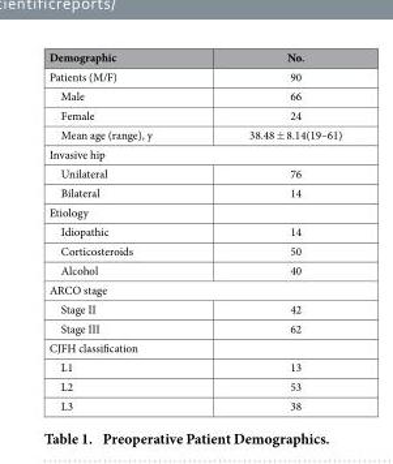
<table><thead><tr><td>Demographic</td><td>No.</td></tr></thead><tbody><tr><td>Patients (M/F)</td><td>90</td></tr><tr><td>Male</td><td>66</td></tr><tr><td>Female</td><td>24</td></tr><tr><td>Mean age (range), y</td><td>38.48 ± 8.14(19–61)</td></tr><tr><td colspan="2">Invasive hip</td></tr><tr><td>Unilateral</td><td>76</td></tr><tr><td>Bilateral</td><td>14</td></tr><tr><td colspan="2">Etiology</td></tr><tr><td>Idiopathic</td><td>14</td></tr><tr><td>Corticosteroids</td><td>50</td></tr><tr><td>Alcohol</td><td>40</td></tr><tr><td colspan="2">ARCO stage</td></tr><tr><td>Stage II</td><td>42</td></tr><tr><td>Stage III</td><td>62</td></tr><tr><td colspan="2">CJFH classification</td></tr><tr><td>L1</td><td>13</td></tr><tr><td>L2</td><td>53</td></tr><tr><td>L3</td><td>38</td></tr></tbody></table>